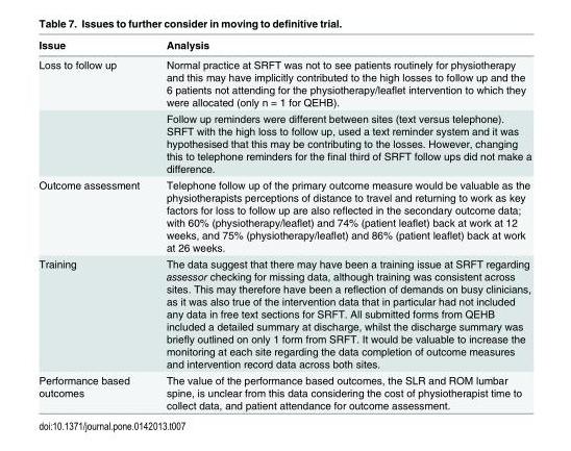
<table><thead><tr><td>Issue</td><td>Analysis</td></tr></thead><tbody><tr><td rowspan="2">Loss to follow up</td><td>Normal practice at SRFT was not to see patients routinely for physiotherapy and this may have implicitly contributed to the high losses to follow up and the 6 patients not attending for the physiotherapy/leaflet intervention to which they were allocated (only n = 1 for QEHB).</td></tr><tr><td>Follow up reminders were different between sites (text versus telephone). SRFT with the high loss to follow up, used a text reminder system and it was hypothesised that this may be contributing to the losses. However, changing this to telephone reminders for the final third of SRFT follow ups did not make a difference.</td></tr><tr><td>Outcome assessment</td><td>Telephone follow up of the primary outcome measure would be valuable as the physiotherapists perceptions of distance to travel and returning to work as key factors for loss to follow up are also reflected in the secondary outcome data; with 60% (physiotherapy/leaflet) and 74% (patient leaflet) back at work at 12 weeks, and 75% (physiotherapy/leaflet) and 86% (patient leaflet) back at work at 26 weeks.</td></tr><tr><td>Training</td><td>The data suggest that there may have been a training issue at SRFT regarding assessor checking for missing data, although training was consistent across sites. This may therefore have been a reflection of demands on busy clinicians, as it was also true of the intervention data that in particular had not included any data in free text sections for SRFT. All submitted forms from QEHB included a detailed summary at discharge, whilst the discharge summary was briefly outlined on only 1 form from SRFT. It would be valuable to increase the monitoring at each site regarding the data completion of outcome measures and intervention record data across both sites.</td></tr><tr><td>Performance based outcomes</td><td>The value of the performance based outcomes, the SLR and ROM lumbar spine, is unclear from this data considering the cost of physiotherapist time to collect data, and patient attendance for outcome assessment.</td></tr></tbody></table>